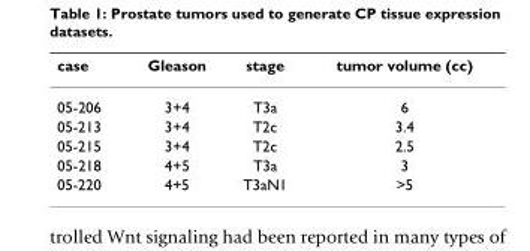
<table><thead><tr><td>case</td><td>Gleason</td><td>stage</td><td>tumor volume (cc)</td></tr></thead><tbody><tr><td>05-206</td><td>3+4</td><td>T3a</td><td>6</td></tr><tr><td>05-213</td><td>3+4</td><td>T2c</td><td>3.4</td></tr><tr><td>05-215</td><td>3+4</td><td>T2c</td><td>2.5</td></tr><tr><td>05-218</td><td>4+5</td><td>T3a</td><td>3</td></tr><tr><td>05-220</td><td>4+5</td><td>T3aN1</td><td>&gt;5</td></tr></tbody></table>